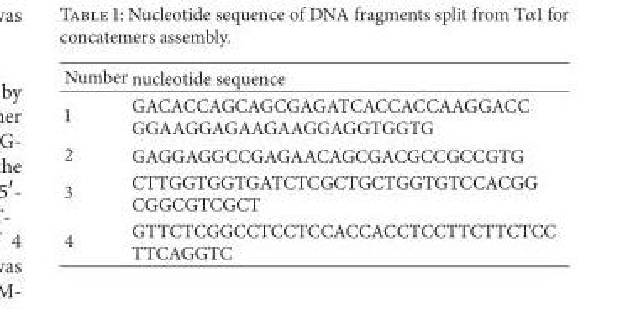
<table><thead><tr><td>Number</td><td>nucleotide sequence</td></tr></thead><tbody><tr><td>1</td><td>GACACCAGCAGCGAGATCACCACCAAGGACC GGAAGGAGAAGAAGGAGGTGGTG</td></tr><tr><td>2</td><td>GAGGAGGCCGAGAACAGCGACGCCGCCGTG</td></tr><tr><td>3</td><td>CTTGGTGGTGATCTCGCTGCTGGTGTCCACGG CGGCGTCGCT</td></tr><tr><td>4</td><td>GTTCTCGGCCTCCTCCACCACCTCCTTCTTCTCC TTCAGGTC</td></tr></tbody></table>